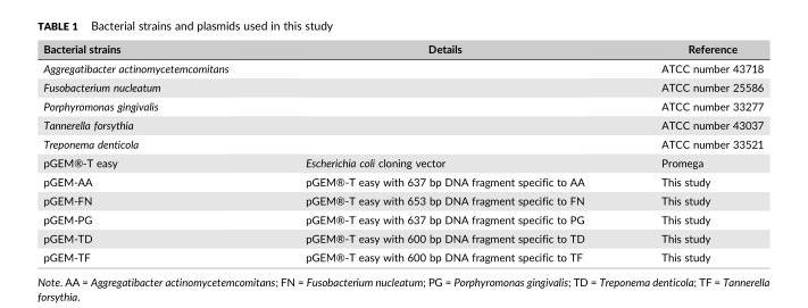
<table><thead><tr><td>Bacterial strains</td><td>Details</td><td>Reference</td></tr></thead><tbody><tr><td>Aggregatibacter actinomycetemcomitans</td><td></td><td>ATCC number 43718</td></tr><tr><td>Fusobacterium nucleatum</td><td></td><td>ATCC number 25586</td></tr><tr><td>Porphyromonas gingivalis</td><td></td><td>ATCC number 33277</td></tr><tr><td>Tannerella forsythia</td><td></td><td>ATCC number 43037</td></tr><tr><td>Treponema denticola</td><td></td><td>ATCC number 33521</td></tr><tr><td>pGEM®‐T easy</td><td>Escherichia coli cloning vector</td><td>Promega</td></tr><tr><td>pGEM‐AA</td><td>pGEM®‐T easy with 637 bp DNA fragment specific to AA</td><td>This study</td></tr><tr><td>pGEM‐FN</td><td>pGEM®‐T easy with 653 bp DNA fragment specific to FN</td><td>This study</td></tr><tr><td>pGEM‐PG</td><td>pGEM®‐T easy with 637 bp DNA fragment specific to PG</td><td>This study</td></tr><tr><td>pGEM‐TD</td><td>pGEM®‐T easy with 600 bp DNA fragment specific to TD</td><td>This study</td></tr><tr><td>pGEM‐TF</td><td>pGEM®‐T easy with 600 bp DNA fragment specific to TF</td><td>This study</td></tr></tbody></table>